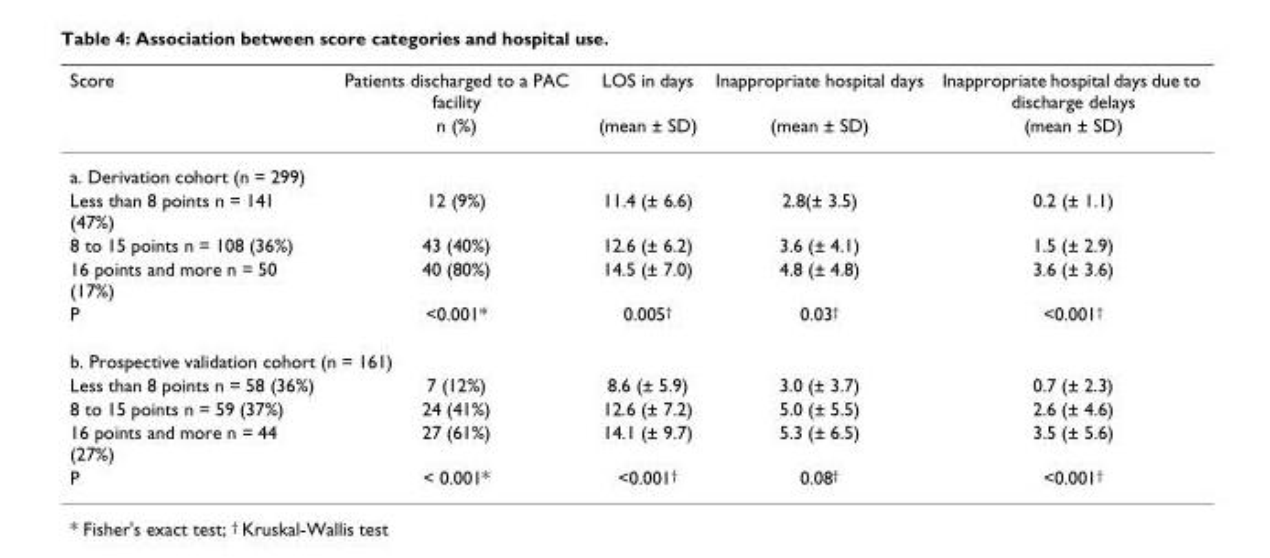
<table><thead><tr><td rowspan="2">Score</td><td rowspan="2">Patients discharged to a PAC facility n (%)</td><td rowspan="2">LOS in days (mean ± SD)</td><td rowspan="2">Inappropriate hospital days (mean ± SD)</td><td rowspan="2">Inappropriate hospital days due to discharge delays (mean ± SD)</td></tr><tr></tr></thead><tbody><tr><td colspan="5">a. Derivation cohort (n = 299)</td></tr><tr><td>Less than 8 points n = 141 (47%)</td><td>12 (9%)</td><td>11.4 (± 6.6)</td><td>2.8(± 3.5)</td><td>0.2 (± 1.1)</td></tr><tr><td>8 to 15 points n = 108 (36%)</td><td>43 (40%)</td><td>12.6 (± 6.2)</td><td>3.6 (± 4.1)</td><td>1.5 (± 2.9)</td></tr><tr><td>16 points and more n = 50 (17%)</td><td>40 (80%)</td><td>14.5 (± 7.0)</td><td>4.8 (± 4.8)</td><td>3.6 (± 3.6)</td></tr><tr><td>P</td><td>&lt;0.001*</td><td>0.005<sup>†</sup></td><td>0.03<sup>†</sup></td><td>&lt;0.001<sup>†</sup></td></tr><tr><td colspan="5">b. Prospective validation cohort (n = 161)</td></tr><tr><td>Less than 8 points n = 58 (36%)</td><td>7 (12%)</td><td>8.6 (± 5.9)</td><td>3.0 (± 3.7)</td><td>0.7 (± 2.3)</td></tr><tr><td>8 to 15 points n = 59 (37%)</td><td>24 (41%)</td><td>12.6 (± 7.2)</td><td>5.0 (± 5.5)</td><td>2.6 (± 4.6)</td></tr><tr><td>16 points and more n = 44 (27%)</td><td>27 (61%)</td><td>14.1 (± 9.7)</td><td>5.3 (± 6.5)</td><td>3.5 (± 5.6)</td></tr><tr><td>P</td><td>&lt; 0.001*</td><td>&lt;0.001<sup>†</sup></td><td>0.08<sup>†</sup></td><td>&lt;0.001<sup>†</sup></td></tr></tbody></table>